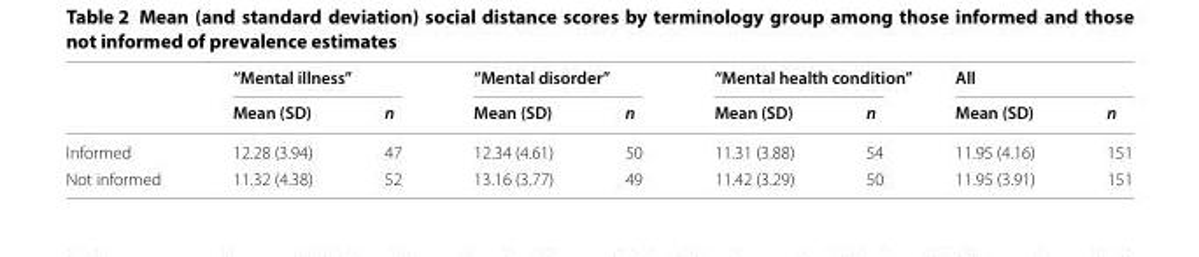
<table><thead><tr><td rowspan="2"></td><td colspan="2">“Mental illness”</td><td colspan="2">“Mental disorder”</td><td colspan="2">“Mental health condition”</td><td colspan="2">All</td></tr><tr><td>Mean (SD)</td><td>n</td><td>Mean (SD)</td><td>n</td><td>Mean (SD)</td><td>n</td><td>Mean (SD)</td><td>n</td></tr></thead><tbody><tr><td>Informed</td><td>12.28 (3.94)</td><td>47</td><td>12.34 (4.61)</td><td>50</td><td>11.31 (3.88)</td><td>54</td><td>11.95 (4.16)</td><td>151</td></tr><tr><td>Not informed</td><td>11.32 (4.38)</td><td>52</td><td>13.16 (3.77)</td><td>49</td><td>11.42 (3.29)</td><td>50</td><td>11.95 (3.91)</td><td>151</td></tr></tbody></table>